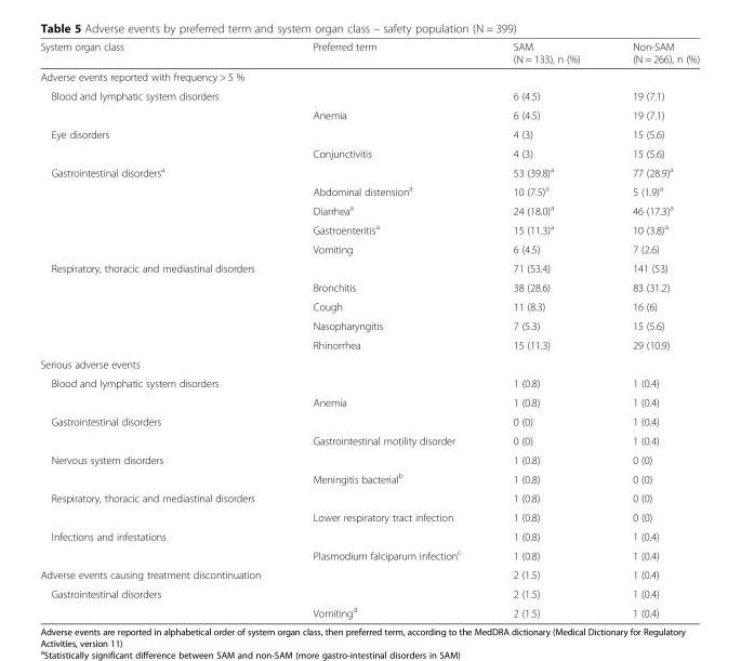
<table><thead><tr><td>System organ class</td><td>Preferred term</td><td>SAM (N = 133), n (%)</td><td>Non-SAM (N = 266), n (%)</td></tr></thead><tbody><tr><td colspan="4">Adverse events reported with frequency &gt; 5 %</td></tr><tr><td rowspan="2">Blood and lymphatic system disorders</td><td></td><td>6 (4.5)</td><td>19 (7.1)</td></tr><tr><td>Anemia</td><td>6 (4.5)</td><td>19 (7.1)</td></tr><tr><td rowspan="2">Eye disorders</td><td></td><td>4 (3)</td><td>15 (5.6)</td></tr><tr><td>Conjunctivitis</td><td>4 (3)</td><td>15 (5.6)</td></tr><tr><td rowspan="5">Gastrointestinal disorders<sup>a</sup></td><td></td><td>53 (39.8)<sup>a</sup></td><td>77 (28.9)<sup>a</sup></td></tr><tr><td>Abdominal distension<sup>a</sup></td><td>10 (7.5)<sup>a</sup></td><td>5 (1.9)<sup>a</sup></td></tr><tr><td>Diarrhea<sup>a</sup></td><td>24 (18.0)<sup>a</sup></td><td>46 (17.3)<sup>a</sup></td></tr><tr><td>Gastroenteritis<sup>a</sup></td><td>15 (11.3)<sup>a</sup></td><td>10 (3.8)<sup>a</sup></td></tr><tr><td>Vomiting</td><td>6 (4.5)</td><td>7 (2.6)</td></tr><tr><td rowspan="5">Respiratory, thoracic and mediastinal disorders</td><td></td><td>71 (53.4)</td><td>141 (53)</td></tr><tr><td>Bronchitis</td><td>38 (28.6)</td><td>83 (31.2)</td></tr><tr><td>Cough</td><td>11 (8.3)</td><td>16 (6)</td></tr><tr><td>Nasopharyngitis</td><td>7 (5.3)</td><td>15 (5.6)</td></tr><tr><td>Rhinorrhea</td><td>15 (11.3)</td><td>29 (10.9)</td></tr><tr><td colspan="4">Serious adverse events</td></tr><tr><td rowspan="2">Blood and lymphatic system disorders</td><td></td><td>1 (0.8)</td><td>1 (0.4)</td></tr><tr><td>Anemia</td><td>1 (0.8)</td><td>1 (0.4)</td></tr><tr><td rowspan="2">Gastrointestinal disorders</td><td></td><td>0 (0)</td><td>1 (0.4)</td></tr><tr><td>Gastrointestinal motility disorder</td><td>0 (0)</td><td>1 (0.4)</td></tr><tr><td rowspan="2">Nervous system disorders</td><td></td><td>1 (0.8)</td><td>0 (0)</td></tr><tr><td>Meningitis bacterial<sup>b</sup></td><td>1 (0.8)</td><td>0 (0)</td></tr><tr><td rowspan="2">Respiratory, thoracic and mediastinal disorders</td><td></td><td>1 (0.8)</td><td>0 (0)</td></tr><tr><td>Lower respiratory tract infection</td><td>1 (0.8)</td><td>0 (0)</td></tr><tr><td rowspan="2">Infections and infestations</td><td></td><td>1 (0.8)</td><td>1 (0.4)</td></tr><tr><td>Plasmodium falciparum infection<sup>c</sup></td><td>1 (0.8)</td><td>1 (0.4)</td></tr><tr><td>Adverse events causing treatment discontinuation</td><td></td><td>2 (1.5)</td><td>1 (0.4)</td></tr><tr><td rowspan="2">Gastrointestinal disorders</td><td></td><td>2 (1.5)</td><td>1 (0.4)</td></tr><tr><td>Vomiting<sup>d</sup></td><td>2 (1.5)</td><td>1 (0.4)</td></tr></tbody></table>